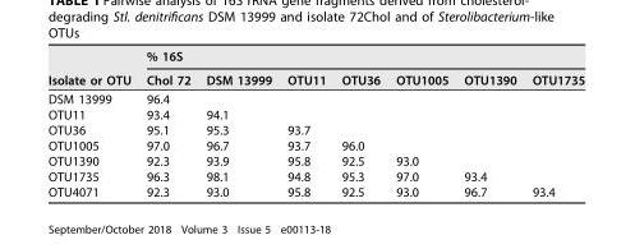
<table><thead><tr><td rowspan="2">Isolate or OTU</td><td colspan="7">% 16S</td></tr><tr><td>Chol 72</td><td>DSM 13999</td><td>OTU11</td><td>OTU36</td><td>OTU1005</td><td>OTU1390</td><td>OTU1735</td></tr></thead><tbody><tr><td>DSM 13999</td><td>96.4</td><td></td><td></td><td></td><td></td><td></td><td></td></tr><tr><td>OTU11</td><td>93.4</td><td>94.1</td><td></td><td></td><td></td><td></td><td></td></tr><tr><td>OTU36</td><td>95.1</td><td>95.3</td><td>93.7</td><td></td><td></td><td></td><td></td></tr><tr><td>OTU1005</td><td>97.0</td><td>96.7</td><td>93.7</td><td>96.0</td><td></td><td></td><td></td></tr><tr><td>OTU1390</td><td>92.3</td><td>93.9</td><td>95.8</td><td>92.5</td><td>93.0</td><td></td><td></td></tr><tr><td>OTU1735</td><td>96.3</td><td>98.1</td><td>94.8</td><td>95.3</td><td>97.0</td><td>93.4</td><td></td></tr><tr><td>OTU4071</td><td>92.3</td><td>93.0</td><td>95.8</td><td>92.5</td><td>93.0</td><td>96.7</td><td>93.4</td></tr></tbody></table>